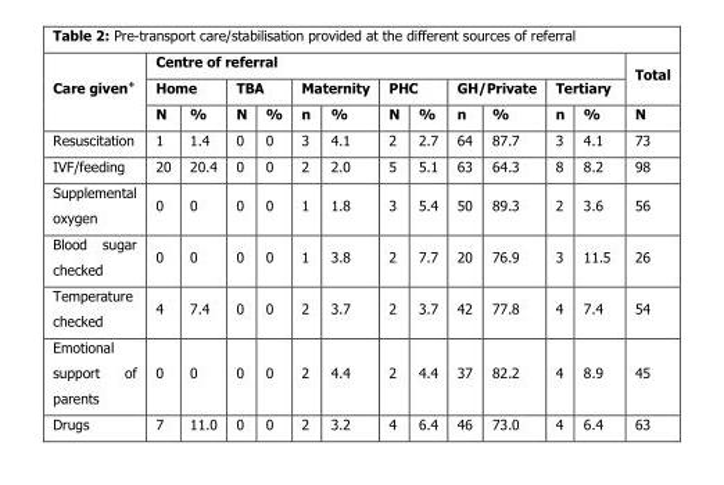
<table><thead><tr><td rowspan="3">Care given<sup>+</sup></td><td colspan="12">Centre of referral</td><td rowspan="3">Total N</td></tr><tr><td colspan="2">Home</td><td colspan="2">TBA</td><td colspan="2">Maternity</td><td colspan="2">PHC</td><td colspan="2">GH/Private</td><td colspan="2">Tertiary</td></tr><tr><td>N</td><td>%</td><td>N</td><td>%</td><td>n</td><td>%</td><td>N</td><td>%</td><td>n</td><td>%</td><td>n</td><td>%</td></tr></thead><tbody><tr><td>Resuscitation</td><td>1</td><td>1.4</td><td>0</td><td>0</td><td>3</td><td>4.1</td><td>2</td><td>2.7</td><td>64</td><td>87.7</td><td>3</td><td>4.1</td><td>73</td></tr><tr><td>IVF/feeding</td><td>20</td><td>20.4</td><td>0</td><td>0</td><td>2</td><td>2.0</td><td>5</td><td>5.1</td><td>63</td><td>64.3</td><td>8</td><td>8.2</td><td>98</td></tr><tr><td>Supplemental oxygen</td><td>0</td><td>0</td><td>0</td><td>0</td><td>1</td><td>1.8</td><td>3</td><td>5.4</td><td>50</td><td>89.3</td><td>2</td><td>3.6</td><td>56</td></tr><tr><td>Blood sugar checked</td><td>0</td><td>0</td><td>0</td><td>0</td><td>1</td><td>3.8</td><td>2</td><td>7.7</td><td>20</td><td>76.9</td><td>3</td><td>11.5</td><td>26</td></tr><tr><td>Temperature checked</td><td>4</td><td>7.4</td><td>0</td><td>0</td><td>2</td><td>3.7</td><td>2</td><td>3.7</td><td>42</td><td>77.8</td><td>4</td><td>7.4</td><td>54</td></tr><tr><td>Emotional support of parents</td><td>0</td><td>0</td><td>0</td><td>0</td><td>2</td><td>4.4</td><td>2</td><td>4.4</td><td>37</td><td>82.2</td><td>4</td><td>8.9</td><td>45</td></tr><tr><td>Drugs</td><td>7</td><td>11.0</td><td>0</td><td>0</td><td>2</td><td>3.2</td><td>4</td><td>6.4</td><td>46</td><td>73.0</td><td>4</td><td>6.4</td><td>63</td></tr></tbody></table>